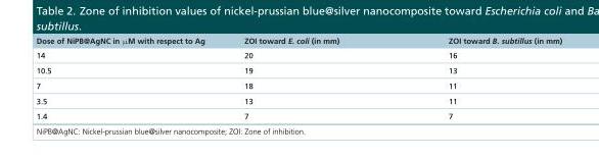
<table><thead><tr><td>Dose of NiPB@AgNC in μM with respect to Ag</td><td>ZOI toward E. coli (in mm)</td><td>ZOI toward B. subtillus (in mm)</td></tr></thead><tbody><tr><td>14</td><td>20</td><td>16</td></tr><tr><td>10.5</td><td>19</td><td>13</td></tr><tr><td>7</td><td>18</td><td>11</td></tr><tr><td>3.5</td><td>13</td><td>11</td></tr><tr><td>1.4</td><td>7</td><td>7</td></tr></tbody></table>